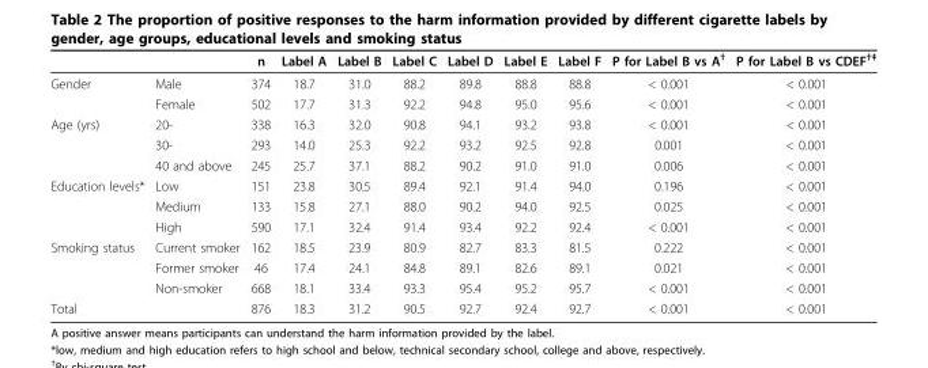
<table><thead><tr><td></td><td></td><td>n</td><td>Label A</td><td>Label B</td><td>Label C</td><td>Label D</td><td>Label E</td><td>Label F</td><td>P for Label B vs A<sup>†</sup></td><td>P for Label B vs CDEF<sup>†‡</sup></td></tr></thead><tbody><tr><td rowspan="2">Gender</td><td>Male</td><td>374</td><td>18.7</td><td>31.0</td><td>88.2</td><td>89.8</td><td>88.8</td><td>88.8</td><td>&lt; 0.001</td><td>&lt; 0.001</td></tr><tr><td>Female</td><td>502</td><td>17.7</td><td>31.3</td><td>92.2</td><td>94.8</td><td>95.0</td><td>95.6</td><td>&lt; 0.001</td><td>&lt; 0.001</td></tr><tr><td rowspan="3">Age (yrs)</td><td>20-</td><td>338</td><td>16.3</td><td>32.0</td><td>90.8</td><td>94.1</td><td>93.2</td><td>93.8</td><td>&lt; 0.001</td><td>&lt; 0.001</td></tr><tr><td>30-</td><td>293</td><td>14.0</td><td>25.3</td><td>92.2</td><td>93.2</td><td>92.5</td><td>92.8</td><td>0.001</td><td>&lt; 0.001</td></tr><tr><td>40 and above</td><td>245</td><td>25.7</td><td>37.1</td><td>88.2</td><td>90.2</td><td>91.0</td><td>91.0</td><td>0.006</td><td>&lt; 0.001</td></tr><tr><td rowspan="3">Education levels*</td><td>Low</td><td>151</td><td>23.8</td><td>30.5</td><td>89.4</td><td>92.1</td><td>91.4</td><td>94.0</td><td>0.196</td><td>&lt; 0.001</td></tr><tr><td>Medium</td><td>133</td><td>15.8</td><td>27.1</td><td>88.0</td><td>90.2</td><td>94.0</td><td>92.5</td><td>0.025</td><td>&lt; 0.001</td></tr><tr><td>High</td><td>590</td><td>17.1</td><td>32.4</td><td>91.4</td><td>93.4</td><td>92.2</td><td>92.4</td><td>&lt; 0.001</td><td>&lt; 0.001</td></tr><tr><td rowspan="3">Smoking status</td><td>Current smoker</td><td>162</td><td>18.5</td><td>23.9</td><td>80.9</td><td>82.7</td><td>83.3</td><td>81.5</td><td>0.222</td><td>&lt; 0.001</td></tr><tr><td>Former smoker</td><td>46</td><td>17.4</td><td>24.1</td><td>84.8</td><td>89.1</td><td>82.6</td><td>89.1</td><td>0.021</td><td>&lt; 0.001</td></tr><tr><td>Non-smoker</td><td>668</td><td>18.1</td><td>33.4</td><td>93.3</td><td>95.4</td><td>95.2</td><td>95.7</td><td>&lt; 0.001</td><td>&lt; 0.001</td></tr><tr><td>Total</td><td></td><td>876</td><td>18.3</td><td>31.2</td><td>90.5</td><td>92.7</td><td>92.4</td><td>92.7</td><td>&lt; 0.001</td><td>&lt; 0.001</td></tr></tbody></table>